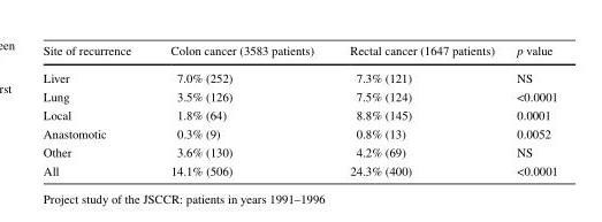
<table><thead><tr><td>Site of recurrence</td><td>Colon cancer (3583 patients)</td><td>Rectal cancer (1647 patients)</td><td>p value</td></tr></thead><tbody><tr><td>Liver</td><td>7.0% (252)</td><td>7.3% (121)</td><td>NS</td></tr><tr><td>Lung</td><td>3.5% (126)</td><td>7.5% (124)</td><td>&lt;0.0001</td></tr><tr><td>Local</td><td>1.8% (64)</td><td>8.8% (145)</td><td>0.0001</td></tr><tr><td>Anastomotic</td><td>0.3% (9)</td><td>0.8% (13)</td><td>0.0052</td></tr><tr><td>Other</td><td>3.6% (130)</td><td>4.2% (69)</td><td>NS</td></tr><tr><td>All</td><td>14.1% (506)</td><td>24.3% (400)</td><td>&lt;0.0001</td></tr></tbody></table>